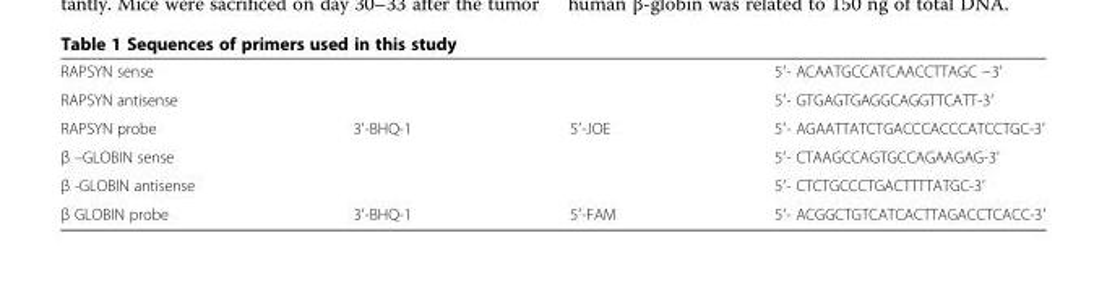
<table><tbody><tr><td>RAPSYN sense</td><td></td><td></td><td>5′- ACAATGCCATCAACCTTAGC −3′</td></tr><tr><td>RAPSYN antisense</td><td></td><td></td><td>5′- GTGAGTGAGGCAGGTTCATT-3′</td></tr><tr><td>RAPSYN probe</td><td>3′-BHQ-1</td><td>5′-JOE</td><td>5′- AGAATTATCTGACCCACCCATCCTGC-3′</td></tr><tr><td>β –GLOBIN sense</td><td></td><td></td><td>5′- CTAAGCCAGTGCCAGAAGAG-3′</td></tr><tr><td>β -GLOBIN antisense</td><td></td><td></td><td>5′- CTCTGCCCTGACTTTTATGC-3′</td></tr><tr><td>β GLOBIN probe</td><td>3′-BHQ-1</td><td>5′-FAM</td><td>5′- ACGGCTGTCATCACTTAGACCTCACC-3′</td></tr></tbody></table>